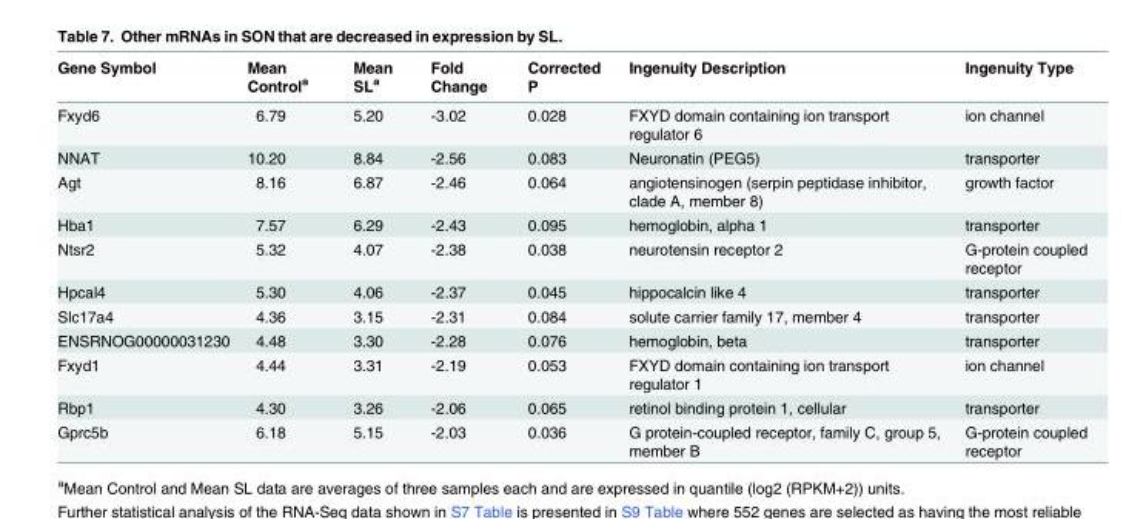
<table><thead><tr><td>Gene Symbol</td><td>Mean Control<sup>a</sup></td><td>Mean SL<sup>a</sup></td><td>Fold Change</td><td>Corrected P</td><td>Ingenuity Description</td><td>Ingenuity Type</td></tr></thead><tbody><tr><td>Fxyd6</td><td>6.79</td><td>5.20</td><td>-3.02</td><td>0.028</td><td>FXYD domain containing ion transport regulator 6</td><td>ion channel</td></tr><tr><td>NNAT</td><td>10.20</td><td>8.84</td><td>-2.56</td><td>0.083</td><td>Neuronatin (PEG5)</td><td>transporter</td></tr><tr><td>Agt</td><td>8.16</td><td>6.87</td><td>-2.46</td><td>0.064</td><td>angiotensinogen (serpin peptidase inhibitor, clade A, member 8)</td><td>growth factor</td></tr><tr><td>Hba1</td><td>7.57</td><td>6.29</td><td>-2.43</td><td>0.095</td><td>hemoglobin, alpha 1</td><td>transporter</td></tr><tr><td>Ntsr2</td><td>5.32</td><td>4.07</td><td>-2.38</td><td>0.038</td><td>neurotensin receptor 2</td><td>G-protein coupled receptor</td></tr><tr><td>Hpcal4</td><td>5.30</td><td>4.06</td><td>-2.37</td><td>0.045</td><td>hippocalcin like 4</td><td>transporter</td></tr><tr><td>Slc17a4</td><td>4.36</td><td>3.15</td><td>-2.31</td><td>0.084</td><td>solute carrier family 17, member 4</td><td>transporter</td></tr><tr><td>ENSRNOG00000031230</td><td>4.48</td><td>3.30</td><td>-2.28</td><td>0.076</td><td>hemoglobin, beta</td><td>transporter</td></tr><tr><td>Fxyd1</td><td>4.44</td><td>3.31</td><td>-2.19</td><td>0.053</td><td>FXYD domain containing ion transport regulator 1</td><td>ion channel</td></tr><tr><td>Rbp1</td><td>4.30</td><td>3.26</td><td>-2.06</td><td>0.065</td><td>retinol binding protein 1, cellular</td><td>transporter</td></tr><tr><td>Gprc5b</td><td>6.18</td><td>5.15</td><td>-2.03</td><td>0.036</td><td>G protein-coupled receptor, family C, group 5, member B</td><td>G-protein coupled receptor</td></tr></tbody></table>